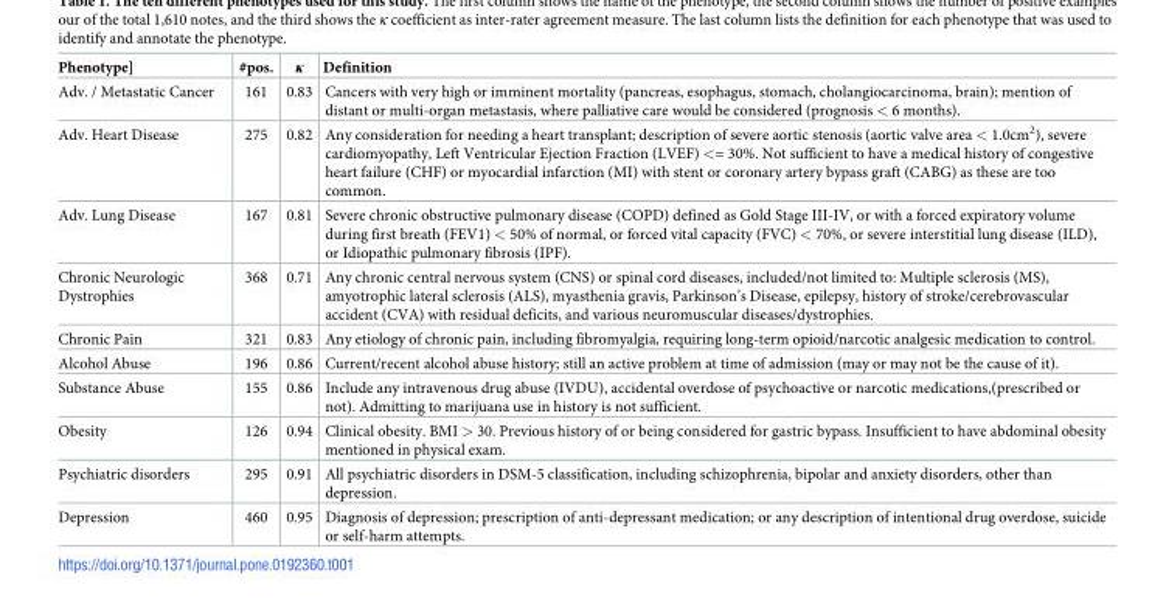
<table><thead><tr><td>Phenotype]</td><td>#pos.</td><td>κ</td><td>Definition</td></tr></thead><tbody><tr><td>Adv. / Metastatic Cancer</td><td>161</td><td>0.83</td><td>Cancers with very high or imminent mortality (pancreas, esophagus, stomach, cholangiocarcinoma, brain); mention of distant or multi-organ metastasis, where palliative care would be considered (prognosis &lt; 6 months).</td></tr><tr><td>Adv. Heart Disease</td><td>275</td><td>0.82</td><td>Any consideration for needing a heart transplant; description of severe aortic stenosis (aortic valve area &lt; 1.0cm<sup>2</sup>), severe cardiomyopathy, Left Ventricular Ejection Fraction (LVEF) &lt;= 30%. Not sufficient to have a medical history of congestive heart failure (CHF) or myocardial infarction (MI) with stent or coronary artery bypass graft (CABG) as these are too common.</td></tr><tr><td>Adv. Lung Disease</td><td>167</td><td>0.81</td><td>Severe chronic obstructive pulmonary disease (COPD) defined as Gold Stage III-IV, or with a forced expiratory volume during first breath (FEV1) &lt; 50% of normal, or forced vital capacity (FVC) &lt; 70%, or severe interstitial lung disease (ILD), or Idiopathic pulmonary fibrosis (IPF).</td></tr><tr><td>Chronic Neurologic Dystrophies</td><td>368</td><td>0.71</td><td>Any chronic central nervous system (CNS) or spinal cord diseases, included/not limited to: Multiple sclerosis (MS), amyotrophic lateral sclerosis (ALS), myasthenia gravis, Parkinson’s Disease, epilepsy, history of stroke/cerebrovascular accident (CVA) with residual deficits, and various neuromuscular diseases/dystrophies.</td></tr><tr><td>Chronic Pain</td><td>321</td><td>0.83</td><td>Any etiology of chronic pain, including fibromyalgia, requiring long-term opioid/narcotic analgesic medication to control.</td></tr><tr><td>Alcohol Abuse</td><td>196</td><td>0.86</td><td>Current/recent alcohol abuse history; still an active problem at time of admission (may or may not be the cause of it).</td></tr><tr><td>Substance Abuse</td><td>155</td><td>0.86</td><td>Include any intravenous drug abuse (IVDU), accidental overdose of psychoactive or narcotic medications,(prescribed or not). Admitting to marijuana use in history is not sufficient.</td></tr><tr><td>Obesity</td><td>126</td><td>0.94</td><td>Clinical obesity. BMI &gt; 30. Previous history of or being considered for gastric bypass. Insufficient to have abdominal obesity mentioned in physical exam.</td></tr><tr><td>Psychiatric disorders</td><td>295</td><td>0.91</td><td>All psychiatric disorders in DSM-5 classification, including schizophrenia, bipolar and anxiety disorders, other than depression.</td></tr><tr><td>Depression</td><td>460</td><td>0.95</td><td>Diagnosis of depression; prescription of anti-depressant medication; or any description of intentional drug overdose, suicide or self-harm attempts.</td></tr></tbody></table>